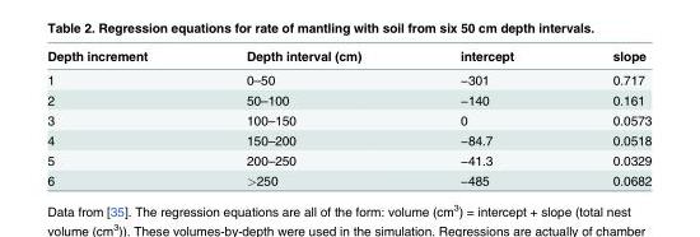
<table><thead><tr><td>Depth increment</td><td>Depth interval (cm)</td><td>intercept</td><td>slope</td></tr></thead><tbody><tr><td>1</td><td>0–50</td><td>−301</td><td>0.717</td></tr><tr><td>2</td><td>50–100</td><td>−140</td><td>0.161</td></tr><tr><td>3</td><td>100–150</td><td>0</td><td>0.0573</td></tr><tr><td>4</td><td>150–200</td><td>−84.7</td><td>0.0518</td></tr><tr><td>5</td><td>200–250</td><td>−41.3</td><td>0.0329</td></tr><tr><td>6</td><td>&gt;250</td><td>−485</td><td>0.0682</td></tr></tbody></table>